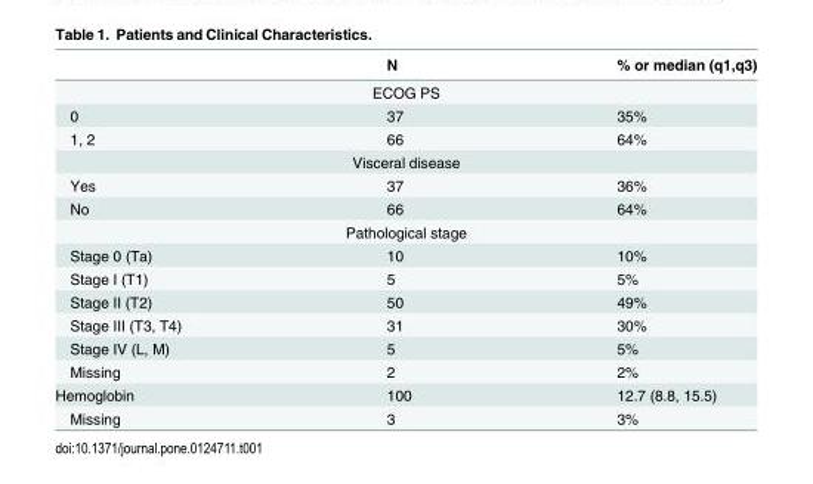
<table><thead><tr><td></td><td>N</td><td>% or median (q1,q3)</td></tr></thead><tbody><tr><td colspan="3">ECOG PS</td></tr><tr><td>0</td><td>37</td><td>35%</td></tr><tr><td>1, 2</td><td>66</td><td>64%</td></tr><tr><td colspan="3">Visceral disease</td></tr><tr><td>Yes</td><td>37</td><td>36%</td></tr><tr><td>No</td><td>66</td><td>64%</td></tr><tr><td colspan="3">Pathological stage</td></tr><tr><td>Stage 0 (Ta)</td><td>10</td><td>10%</td></tr><tr><td>Stage I (T1)</td><td>5</td><td>5%</td></tr><tr><td>Stage II (T2)</td><td>50</td><td>49%</td></tr><tr><td>Stage III (T3, T4)</td><td>31</td><td>30%</td></tr><tr><td>Stage IV (L, M)</td><td>5</td><td>5%</td></tr><tr><td>Missing</td><td>2</td><td>2%</td></tr><tr><td>Hemoglobin</td><td>100</td><td>12.7 (8.8, 15.5)</td></tr><tr><td>Missing</td><td>3</td><td>3%</td></tr></tbody></table>